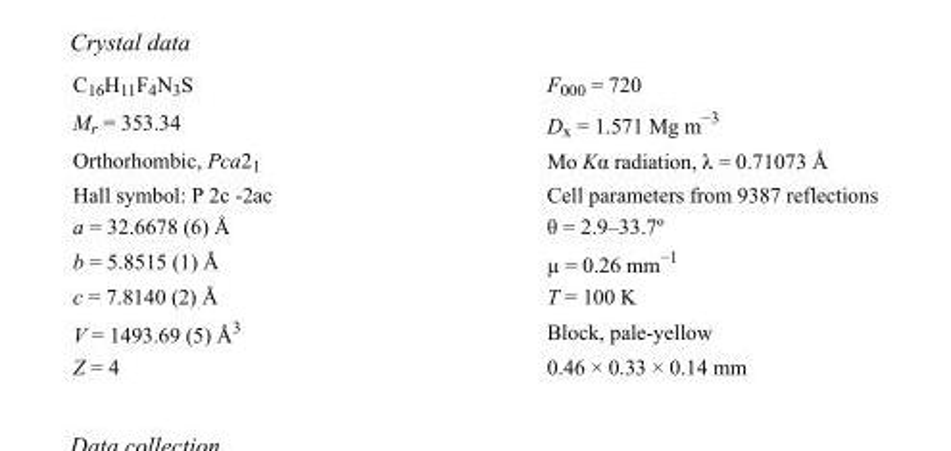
<table><tbody><tr><td>C<sub>16</sub>H<sub>11</sub>F<sub>4</sub>N<sub>3</sub>S</td><td>F000 = 720</td></tr><tr><td>M<sub>r</sub> = 353.34</td><td>D<sub>x</sub> = 1.571 Mg m<sup>−3</sup></td></tr><tr><td>Orthorhombic, Pca2<sub>1</sub></td><td>Mo Kα radiation, λ = 0.71073 Å</td></tr><tr><td>Hall symbol: P 2c -2ac</td><td>Cell parameters from 9387 reflections</td></tr><tr><td>a = 32.6678 (6) Å</td><td>θ = 2.9–33.7º</td></tr><tr><td>b = 5.8515 (1) Å</td><td>µ = 0.26 mm<sup>−1</sup></td></tr><tr><td>c = 7.8140 (2) Å</td><td>T = 100 K</td></tr><tr><td>V = 1493.69 (5) Å<sup>3</sup></td><td>Block, pale-yellow</td></tr><tr><td>Z = 4</td><td>0.46 × 0.33 × 0.14 mm</td></tr></tbody></table>